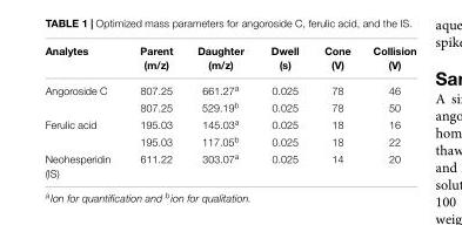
<table><thead><tr><td>Analytes</td><td>Parent (m/z)</td><td>Daughter (m/z)</td><td>Dwell (s)</td><td>Cone (V)</td><td>Collision (V)</td></tr></thead><tbody><tr><td rowspan="2">Angoroside C</td><td>807.25</td><td>661.27<sup>a</sup></td><td>0.025</td><td>78</td><td>46</td></tr><tr><td>807.25</td><td>529.19<sup>b</sup></td><td>0.025</td><td>78</td><td>50</td></tr><tr><td rowspan="2">Ferulic acid</td><td>195.03</td><td>145.03<sup>a</sup></td><td>0.025</td><td>18</td><td>16</td></tr><tr><td>195.03</td><td>117.05<sup>b</sup></td><td>0.025</td><td>18</td><td>22</td></tr><tr><td>Neohesperidin (IS)</td><td>611.22</td><td>303.07<sup>a</sup></td><td>0.025</td><td>14</td><td>20</td></tr></tbody></table>